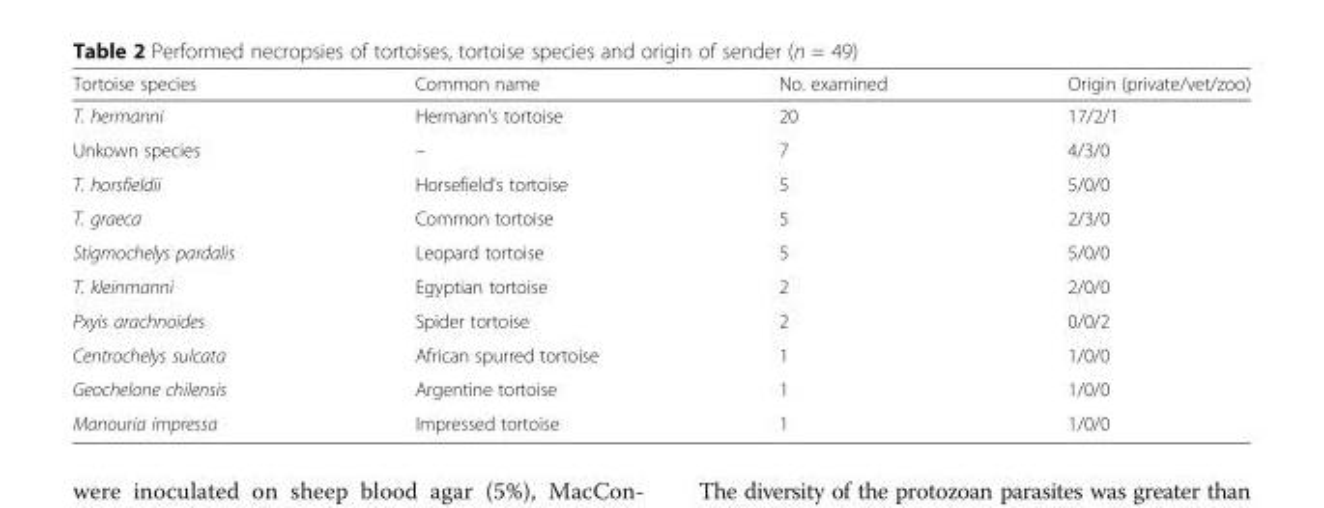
<table><thead><tr><td>Tortoise species</td><td>Common name</td><td>No. examined</td><td>Origin (private/vet/zoo)</td></tr></thead><tbody><tr><td>T. hermanni</td><td>Hermann’s tortoise</td><td>20</td><td>17/2/1</td></tr><tr><td>Unkown species</td><td>–</td><td>7</td><td>4/3/0</td></tr><tr><td>T. horsfieldii</td><td>Horsefield’s tortoise</td><td>5</td><td>5/0/0</td></tr><tr><td>T. graeca</td><td>Common tortoise</td><td>5</td><td>2/3/0</td></tr><tr><td>Stigmochelys pardalis</td><td>Leopard tortoise</td><td>5</td><td>5/0/0</td></tr><tr><td>T. kleinmanni</td><td>Egyptian tortoise</td><td>2</td><td>2/0/0</td></tr><tr><td>Pxyis arachnoides</td><td>Spider tortoise</td><td>2</td><td>0/0/2</td></tr><tr><td>Centrochelys sulcata</td><td>African spurred tortoise</td><td>1</td><td>1/0/0</td></tr><tr><td>Geochelone chilensis</td><td>Argentine tortoise</td><td>1</td><td>1/0/0</td></tr><tr><td>Manouria impressa</td><td>Impressed tortoise</td><td>1</td><td>1/0/0</td></tr></tbody></table>